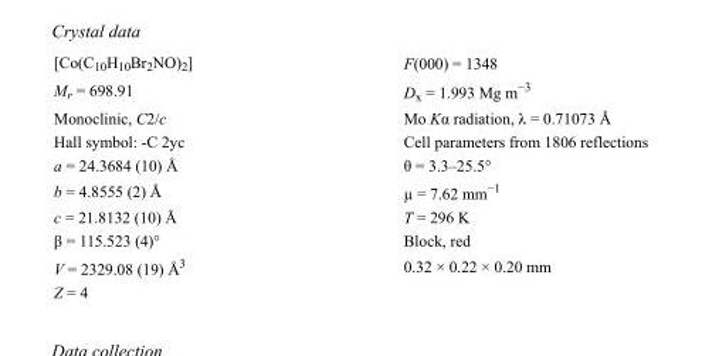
<table><tbody><tr><td>[Co(C<sub>10</sub>H<sub>10</sub>Br<sub>2</sub>NO)<sub>2</sub>]</td><td>F(000) = 1348</td></tr><tr><td>M<sub>r</sub> = 698.91</td><td>D<sub>x</sub> = 1.993 Mg m<sup>−3</sup></td></tr><tr><td>Monoclinic, C2/c</td><td>Mo Kα radiation, λ = 0.71073 Å</td></tr><tr><td>Hall symbol: -C 2yc</td><td>Cell parameters from 1806 reflections</td></tr><tr><td>a = 24.3684 (10) Å</td><td>θ = 3.3–25.5°</td></tr><tr><td>b = 4.8555 (2) Å</td><td>µ = 7.62 mm<sup>−1</sup></td></tr><tr><td>c = 21.8132 (10) Å</td><td>T = 296 K</td></tr><tr><td>β = 115.523 (4)°</td><td>Block, red</td></tr><tr><td>V = 2329.08 (19) Å<sup>3</sup></td><td>0.32 × 0.22 × 0.20 mm</td></tr><tr><td>Z = 4</td><td></td></tr></tbody></table>